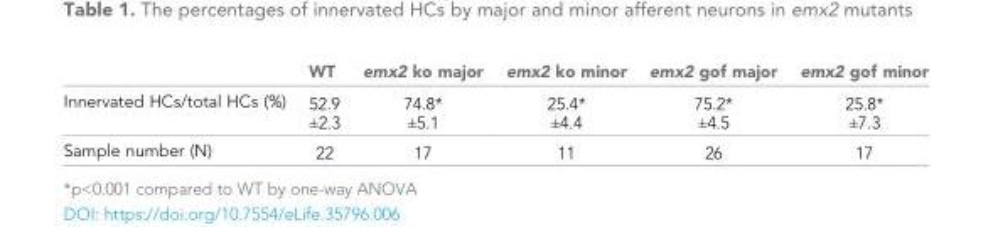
<table><thead><tr><td></td><td>WT</td><td>emx2 ko major</td><td>emx2 ko minor</td><td>emx2 gof major</td><td>emx2 gof minor</td></tr></thead><tbody><tr><td>Innervated HCs/total HCs (%)</td><td>52.9 ±2.3</td><td>74.8* ±5.1</td><td>25.4* ±4.4</td><td>75.2* ±4.5</td><td>25.8* ±7.3</td></tr><tr><td>Sample number (N)</td><td>22</td><td>17</td><td>11</td><td>26</td><td>17</td></tr></tbody></table>